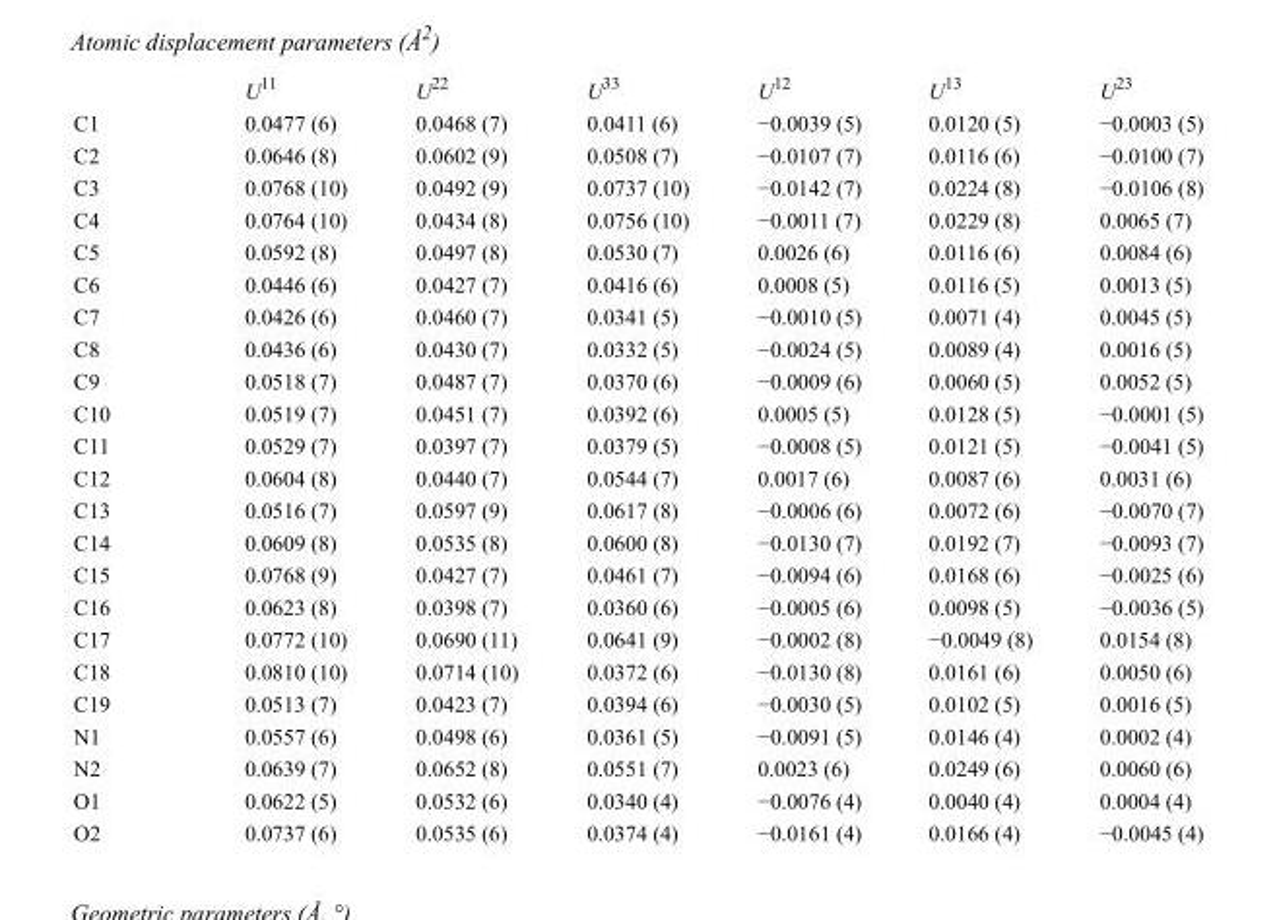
<table><thead><tr><td></td><td>U<sup>11</sup></td><td>U<sup>22</sup></td><td>U<sup>33</sup></td><td>U<sup>12</sup></td><td>U<sup>13</sup></td><td>U<sup>23</sup></td></tr></thead><tbody><tr><td>C1</td><td>0.0477 (6)</td><td>0.0468 (7)</td><td>0.0411 (6)</td><td>−0.0039 (5)</td><td>0.0120 (5)</td><td>−0.0003 (5)</td></tr><tr><td>C2</td><td>0.0646 (8)</td><td>0.0602 (9)</td><td>0.0508 (7)</td><td>−0.0107 (7)</td><td>0.0116 (6)</td><td>−0.0100 (7)</td></tr><tr><td>C3</td><td>0.0768 (10)</td><td>0.0492 (9)</td><td>0.0737 (10)</td><td>−0.0142 (7)</td><td>0.0224 (8)</td><td>−0.0106 (8)</td></tr><tr><td>C4</td><td>0.0764 (10)</td><td>0.0434 (8)</td><td>0.0756 (10)</td><td>−0.0011 (7)</td><td>0.0229 (8)</td><td>0.0065 (7)</td></tr><tr><td>C5</td><td>0.0592 (8)</td><td>0.0497 (8)</td><td>0.0530 (7)</td><td>0.0026 (6)</td><td>0.0116 (6)</td><td>0.0084 (6)</td></tr><tr><td>C6</td><td>0.0446 (6)</td><td>0.0427 (7)</td><td>0.0416 (6)</td><td>0.0008 (5)</td><td>0.0116 (5)</td><td>0.0013 (5)</td></tr><tr><td>C7</td><td>0.0426 (6)</td><td>0.0460 (7)</td><td>0.0341 (5)</td><td>−0.0010 (5)</td><td>0.0071 (4)</td><td>0.0045 (5)</td></tr><tr><td>C8</td><td>0.0436 (6)</td><td>0.0430 (7)</td><td>0.0332 (5)</td><td>−0.0024 (5)</td><td>0.0089 (4)</td><td>0.0016 (5)</td></tr><tr><td>C9</td><td>0.0518 (7)</td><td>0.0487 (7)</td><td>0.0370 (6)</td><td>−0.0009 (6)</td><td>0.0060 (5)</td><td>0.0052 (5)</td></tr><tr><td>C10</td><td>0.0519 (7)</td><td>0.0451 (7)</td><td>0.0392 (6)</td><td>0.0005 (5)</td><td>0.0128 (5)</td><td>−0.0001 (5)</td></tr><tr><td>C11</td><td>0.0529 (7)</td><td>0.0397 (7)</td><td>0.0379 (5)</td><td>−0.0008 (5)</td><td>0.0121 (5)</td><td>−0.0041 (5)</td></tr><tr><td>C12</td><td>0.0604 (8)</td><td>0.0440 (7)</td><td>0.0544 (7)</td><td>0.0017 (6)</td><td>0.0087 (6)</td><td>0.0031 (6)</td></tr><tr><td>C13</td><td>0.0516 (7)</td><td>0.0597 (9)</td><td>0.0617 (8)</td><td>−0.0006 (6)</td><td>0.0072 (6)</td><td>−0.0070 (7)</td></tr><tr><td>C14</td><td>0.0609 (8)</td><td>0.0535 (8)</td><td>0.0600 (8)</td><td>−0.0130 (7)</td><td>0.0192 (7)</td><td>−0.0093 (7)</td></tr><tr><td>C15</td><td>0.0768 (9)</td><td>0.0427 (7)</td><td>0.0461 (7)</td><td>−0.0094 (6)</td><td>0.0168 (6)</td><td>−0.0025 (6)</td></tr><tr><td>C16</td><td>0.0623 (8)</td><td>0.0398 (7)</td><td>0.0360 (6)</td><td>−0.0005 (6)</td><td>0.0098 (5)</td><td>−0.0036 (5)</td></tr><tr><td>C17</td><td>0.0772 (10)</td><td>0.0690 (11)</td><td>0.0641 (9)</td><td>−0.0002 (8)</td><td>−0.0049 (8)</td><td>0.0154 (8)</td></tr><tr><td>C18</td><td>0.0810 (10)</td><td>0.0714 (10)</td><td>0.0372 (6)</td><td>−0.0130 (8)</td><td>0.0161 (6)</td><td>0.0050 (6)</td></tr><tr><td>C19</td><td>0.0513 (7)</td><td>0.0423 (7)</td><td>0.0394 (6)</td><td>−0.0030 (5)</td><td>0.0102 (5)</td><td>0.0016 (5)</td></tr><tr><td>N1</td><td>0.0557 (6)</td><td>0.0498 (6)</td><td>0.0361 (5)</td><td>−0.0091 (5)</td><td>0.0146 (4)</td><td>0.0002 (4)</td></tr><tr><td>N2</td><td>0.0639 (7)</td><td>0.0652 (8)</td><td>0.0551 (7)</td><td>0.0023 (6)</td><td>0.0249 (6)</td><td>0.0060 (6)</td></tr><tr><td>O1</td><td>0.0622 (5)</td><td>0.0532 (6)</td><td>0.0340 (4)</td><td>−0.0076 (4)</td><td>0.0040 (4)</td><td>0.0004 (4)</td></tr><tr><td>O2</td><td>0.0737 (6)</td><td>0.0535 (6)</td><td>0.0374 (4)</td><td>−0.0161 (4)</td><td>0.0166 (4)</td><td>−0.0045 (4)</td></tr></tbody></table>